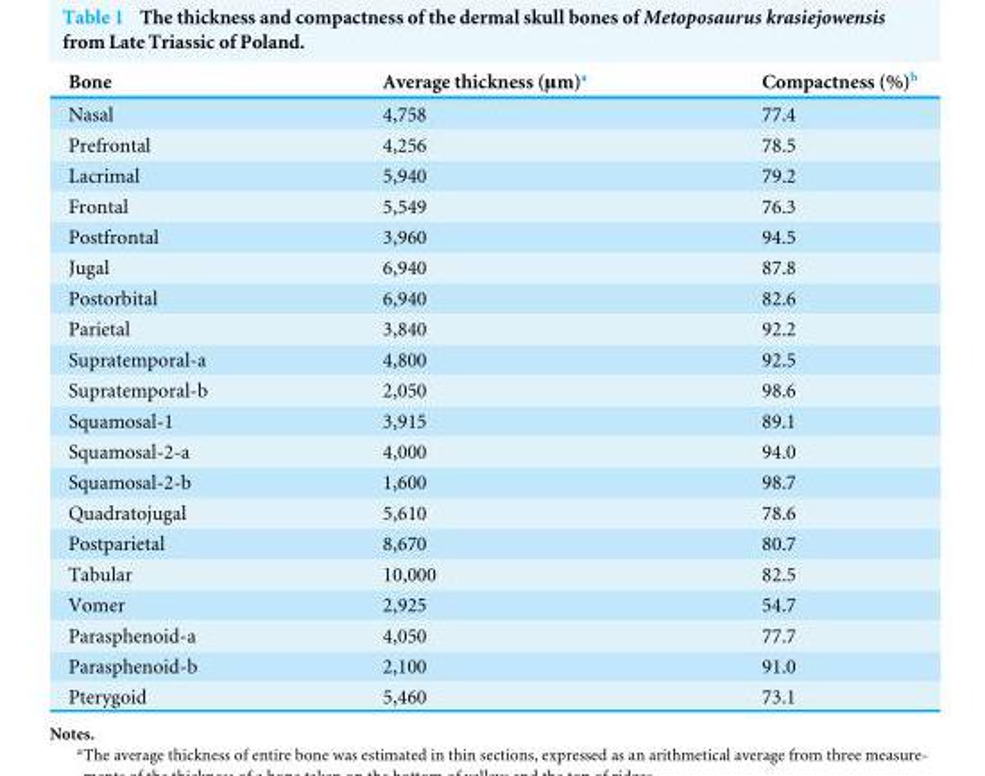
<table><thead><tr><td>Bone</td><td>Average thickness (µm)<sup>a</sup></td><td>Compactness (%)<sup>b</sup></td></tr></thead><tbody><tr><td>Nasal</td><td>4,758</td><td>77.4</td></tr><tr><td>Prefrontal</td><td>4,256</td><td>78.5</td></tr><tr><td>Lacrimal</td><td>5,940</td><td>79.2</td></tr><tr><td>Frontal</td><td>5,549</td><td>76.3</td></tr><tr><td>Postfrontal</td><td>3,960</td><td>94.5</td></tr><tr><td>Jugal</td><td>6,940</td><td>87.8</td></tr><tr><td>Postorbital</td><td>6,940</td><td>82.6</td></tr><tr><td>Parietal</td><td>3,840</td><td>92.2</td></tr><tr><td>Supratemporal-a</td><td>4,800</td><td>92.5</td></tr><tr><td>Supratemporal-b</td><td>2,050</td><td>98.6</td></tr><tr><td>Squamosal-1</td><td>3,915</td><td>89.1</td></tr><tr><td>Squamosal-2-a</td><td>4,000</td><td>94.0</td></tr><tr><td>Squamosal-2-b</td><td>1,600</td><td>98.7</td></tr><tr><td>Quadratojugal</td><td>5,610</td><td>78.6</td></tr><tr><td>Postparietal</td><td>8,670</td><td>80.7</td></tr><tr><td>Tabular</td><td>10,000</td><td>82.5</td></tr><tr><td>Vomer</td><td>2,925</td><td>54.7</td></tr><tr><td>Parasphenoid-a</td><td>4,050</td><td>77.7</td></tr><tr><td>Parasphenoid-b</td><td>2,100</td><td>91.0</td></tr><tr><td>Pterygoid</td><td>5,460</td><td>73.1</td></tr></tbody></table>